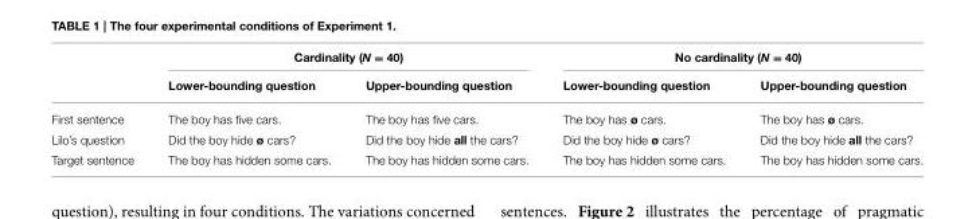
<table><thead><tr><td rowspan="2"></td><td colspan="2">Cardinality (N = 40)</td><td colspan="2">No cardinality (N = 40)</td></tr><tr><td>Lower-bounding question</td><td>Upper-bounding question</td><td>Lower-bounding question</td><td>Upper-bounding question</td></tr></thead><tbody><tr><td>First sentence</td><td>The boy has five cars.</td><td>The boy has five cars.</td><td>The boy has ø cars.</td><td>The boy has ø cars.</td></tr><tr><td>Lilo’s question</td><td>Did the boy hide ø cars?</td><td>Did the boy hide all the cars?</td><td>Did the boy hide ø cars?</td><td>Did the boy hide all the cars?</td></tr><tr><td>Target sentence</td><td>The boy has hidden some cars.</td><td>The boy has hidden some cars.</td><td>The boy has hidden some cars.</td><td>The boy has hidden some cars.</td></tr></tbody></table>